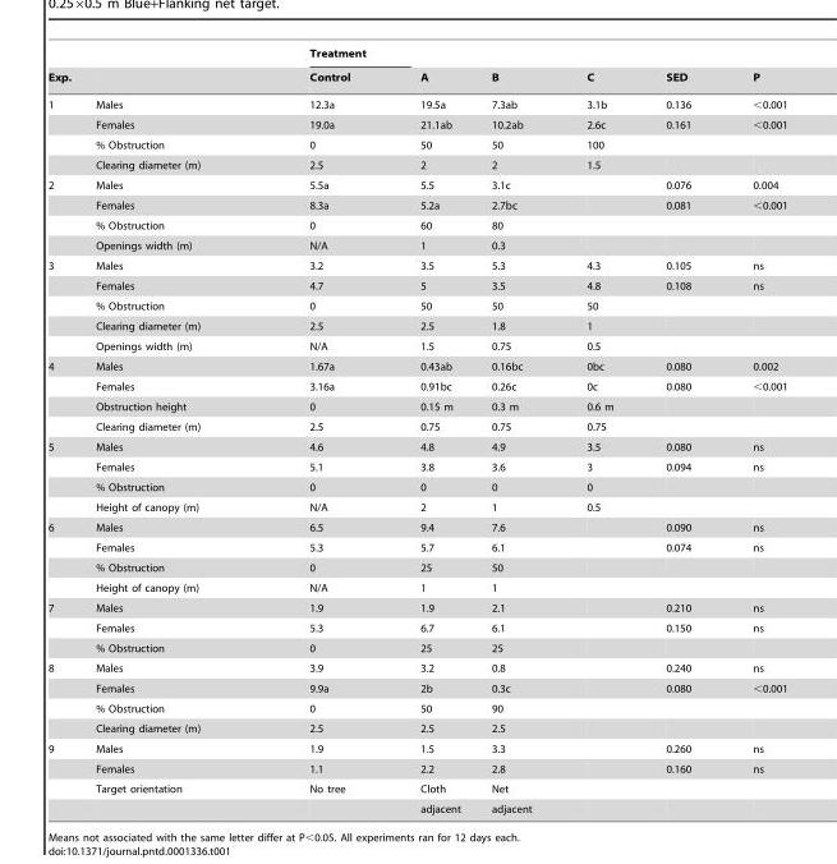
<table><thead><tr><td rowspan="2">Exp.</td><td rowspan="2"></td><td rowspan="2">Treatment Control</td><td rowspan="2">A</td><td rowspan="2">B</td><td rowspan="2">C</td><td rowspan="2">SED</td><td rowspan="2">P</td></tr><tr></tr></thead><tbody><tr><td rowspan="4">1</td><td>Males</td><td>12.3a</td><td>19.5a</td><td>7.3ab</td><td>3.1b</td><td>0.136</td><td>&lt;0.001</td></tr><tr><td>Females</td><td>19.0a</td><td>21.1ab</td><td>10.2ab</td><td>2.6c</td><td>0.161</td><td>&lt;0.001</td></tr><tr><td>% Obstruction</td><td>0</td><td>50</td><td>50</td><td>100</td><td></td><td></td></tr><tr><td>Clearing diameter (m)</td><td>2.5</td><td>2</td><td>2</td><td>1.5</td><td></td><td></td></tr><tr><td rowspan="4">2</td><td>Males</td><td>5.5a</td><td>5.5</td><td>3.1c</td><td></td><td>0.076</td><td>0.004</td></tr><tr><td>Females</td><td>8.3a</td><td>5.2a</td><td>2.7bc</td><td></td><td>0.081</td><td>&lt;0.001</td></tr><tr><td>% Obstruction</td><td>0</td><td>60</td><td>80</td><td></td><td></td><td></td></tr><tr><td>Openings width (m)</td><td>N/A</td><td>1</td><td>0.3</td><td></td><td></td><td></td></tr><tr><td rowspan="5">3</td><td>Males</td><td>3.2</td><td>3.5</td><td>5.3</td><td>4.3</td><td>0.105</td><td>ns</td></tr><tr><td>Females</td><td>4.7</td><td>5</td><td>3.5</td><td>4.8</td><td>0.108</td><td>ns</td></tr><tr><td>% Obstruction</td><td>0</td><td>50</td><td>50</td><td>50</td><td></td><td></td></tr><tr><td>Clearing diameter (m)</td><td>2.5</td><td>2.5</td><td>1.8</td><td>1</td><td></td><td></td></tr><tr><td>Openings width (m)</td><td>N/A</td><td>1.5</td><td>0.75</td><td>0.5</td><td></td><td></td></tr><tr><td rowspan="4">4</td><td>Males</td><td>1.67a</td><td>0.43ab</td><td>0.16bc</td><td>0bc</td><td>0.080</td><td>0.002</td></tr><tr><td>Females</td><td>3.16a</td><td>0.91bc</td><td>0.26c</td><td>0c</td><td>0.080</td><td>&lt;0.001</td></tr><tr><td>Obstruction height</td><td>0</td><td>0.15 m</td><td>0.3 m</td><td>0.6 m</td><td></td><td></td></tr><tr><td>Clearing diameter (m)</td><td>2.5</td><td>0.75</td><td>0.75</td><td>0.75</td><td></td><td></td></tr><tr><td rowspan="4">5</td><td>Males</td><td>4.6</td><td>4.8</td><td>4.9</td><td>3.5</td><td>0.080</td><td>ns</td></tr><tr><td>Females</td><td>5.1</td><td>3.8</td><td>3.6</td><td>3</td><td>0.094</td><td>ns</td></tr><tr><td>% Obstruction</td><td>0</td><td>0</td><td>0</td><td>0</td><td></td><td></td></tr><tr><td>Height of canopy (m)</td><td>N/A</td><td>2</td><td>1</td><td>0.5</td><td></td><td></td></tr><tr><td rowspan="4">6</td><td>Males</td><td>6.5</td><td>9.4</td><td>7.6</td><td></td><td>0.090</td><td>ns</td></tr><tr><td>Females</td><td>5.3</td><td>5.7</td><td>6.1</td><td></td><td>0.074</td><td>ns</td></tr><tr><td>% Obstruction</td><td>0</td><td>25</td><td>50</td><td></td><td></td><td></td></tr><tr><td>Height of canopy (m)</td><td>N/A</td><td>1</td><td>1</td><td></td><td></td><td></td></tr><tr><td rowspan="3">7</td><td>Males</td><td>1.9</td><td>1.9</td><td>2.1</td><td></td><td>0.210</td><td>ns</td></tr><tr><td>Females</td><td>5.3</td><td>6.7</td><td>6.1</td><td></td><td>0.150</td><td>ns</td></tr><tr><td>% Obstruction</td><td>0</td><td>25</td><td>25</td><td></td><td></td><td></td></tr><tr><td rowspan="4">8</td><td>Males</td><td>3.9</td><td>3.2</td><td>0.8</td><td></td><td>0.240</td><td>ns</td></tr><tr><td>Females</td><td>9.9a</td><td>2b</td><td>0.3c</td><td></td><td>0.080</td><td>&lt;0.001</td></tr><tr><td>% Obstruction</td><td>0</td><td>50</td><td>90</td><td></td><td></td><td></td></tr><tr><td>Clearing diameter (m)</td><td>2.5</td><td>2.5</td><td>2.5</td><td></td><td></td><td></td></tr><tr><td rowspan="4">9</td><td>Males</td><td>1.9</td><td>1.5</td><td>3.3</td><td></td><td>0.260</td><td>ns</td></tr><tr><td>Females</td><td>1.1</td><td>2.2</td><td>2.8</td><td></td><td>0.160</td><td>ns</td></tr><tr><td>Target orientation</td><td>No tree</td><td>Cloth</td><td>Net</td><td></td><td></td><td></td></tr><tr><td></td><td></td><td>adjacent</td><td>adjacent</td><td></td><td></td><td></td></tr></tbody></table>